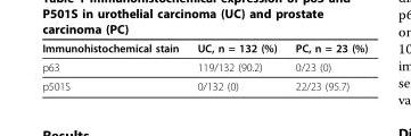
<table><thead><tr><td>Immunohistochemical stain</td><td>UC, n = 132 (%)</td><td>PC, n = 23 (%)</td></tr></thead><tbody><tr><td>p63</td><td>119/132 (90.2)</td><td>0/23 (0)</td></tr><tr><td>p501S</td><td>0/132 (0)</td><td>22/23 (95.7)</td></tr></tbody></table>